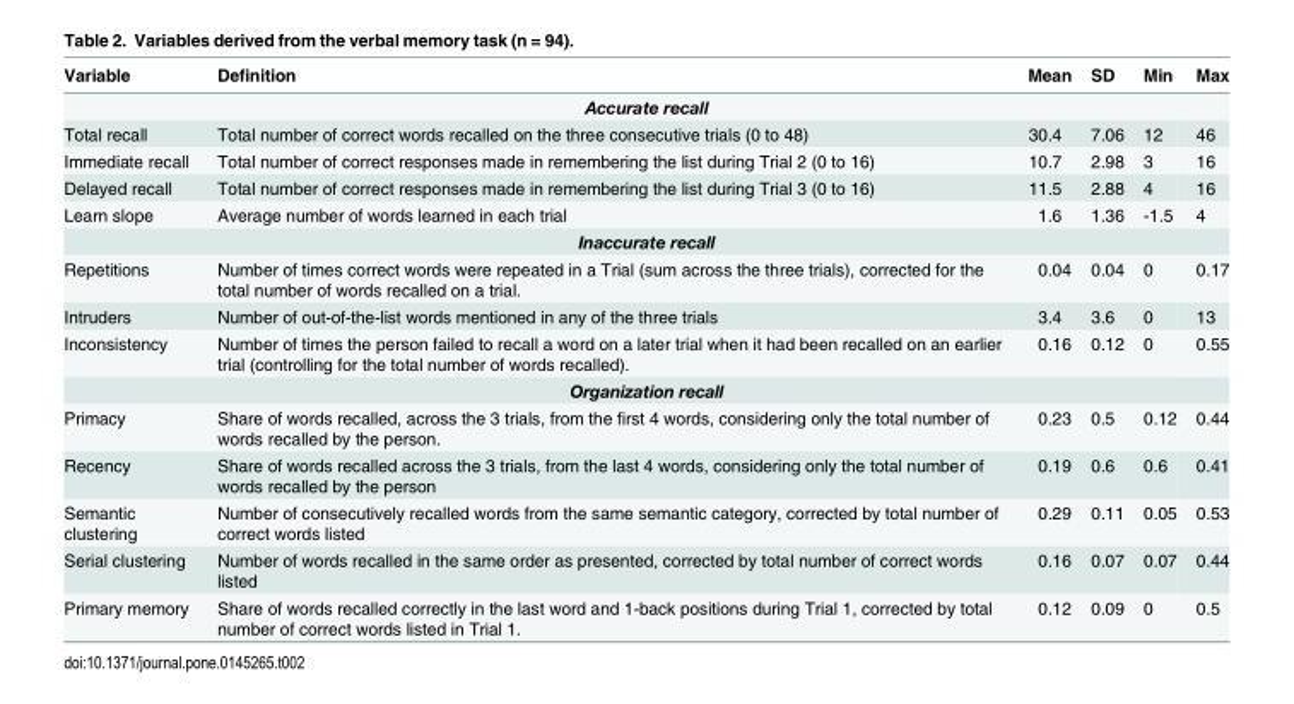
<table><thead><tr><td>Variable</td><td>Definition</td><td>Mean</td><td>SD</td><td>Min</td><td>Max</td></tr></thead><tbody><tr><td colspan="6">Accurate recall</td></tr><tr><td>Total recall</td><td>Total number of correct words recalled on the three consecutive trials (0 to 48)</td><td>30.4</td><td>7.06</td><td>12</td><td>46</td></tr><tr><td>Immediate recall</td><td>Total number of correct responses made in remembering the list during Trial 2 (0 to 16)</td><td>10.7</td><td>2.98</td><td>3</td><td>16</td></tr><tr><td>Delayed recall</td><td>Total number of correct responses made in remembering the list during Trial 3 (0 to 16)</td><td>11.5</td><td>2.88</td><td>4</td><td>16</td></tr><tr><td>Learn slope</td><td>Average number of words learned in each trial</td><td>1.6</td><td>1.36</td><td>-1.5</td><td>4</td></tr><tr><td colspan="6">Inaccurate recall</td></tr><tr><td>Repetitions</td><td>Number of times correct words were repeated in a Trial (sum across the three trials), corrected for the total number of words recalled on a trial.</td><td>0.04</td><td>0.04</td><td>0</td><td>0.17</td></tr><tr><td>Intruders</td><td>Number of out-of-the-list words mentioned in any of the three trials</td><td>3.4</td><td>3.6</td><td>0</td><td>13</td></tr><tr><td>Inconsistency</td><td>Number of times the person failed to recall a word on a later trial when it had been recalled on an earlier trial (controlling for the total number of words recalled).</td><td>0.16</td><td>0.12</td><td>0</td><td>0.55</td></tr><tr><td colspan="6">Organization recall</td></tr><tr><td>Primacy</td><td>Share of words recalled, across the 3 trials, from the first 4 words, considering only the total number of words recalled by the person.</td><td>0.23</td><td>0.5</td><td>0.12</td><td>0.44</td></tr><tr><td>Recency</td><td>Share of words recalled across the 3 trials, from the last 4 words, considering only the total number of words recalled by the person</td><td>0.19</td><td>0.6</td><td>0.6</td><td>0.41</td></tr><tr><td>Semantic clustering</td><td>Number of consecutively recalled words from the same semantic category, corrected by total number of correct words listed</td><td>0.29</td><td>0.11</td><td>0.05</td><td>0.53</td></tr><tr><td>Serial clustering</td><td>Number of words recalled in the same order as presented, corrected by total number of correct words listed</td><td>0.16</td><td>0.07</td><td>0.07</td><td>0.44</td></tr><tr><td>Primary memory</td><td>Share of words recalled correctly in the last word and 1-back positions during Trial 1, corrected by total number of correct words listed in Trial 1.</td><td>0.12</td><td>0.09</td><td>0</td><td>0.5</td></tr></tbody></table>